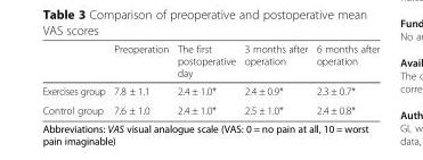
<table><thead><tr><td></td><td>Preoperation</td><td>The first postoperative day</td><td>3 months after operation</td><td>6 months after operation</td></tr></thead><tbody><tr><td>Exercises group</td><td>7.8 ± 1.1</td><td>2.4 ± 1.0*</td><td>2.4 ± 0.9*</td><td>2.3 ± 0.7*</td></tr><tr><td>Control group</td><td>7.6 ± 1.0</td><td>2.4 ± 1.0*</td><td>2.5 ± 1.0*</td><td>2.4 ± 0.8*</td></tr></tbody></table>